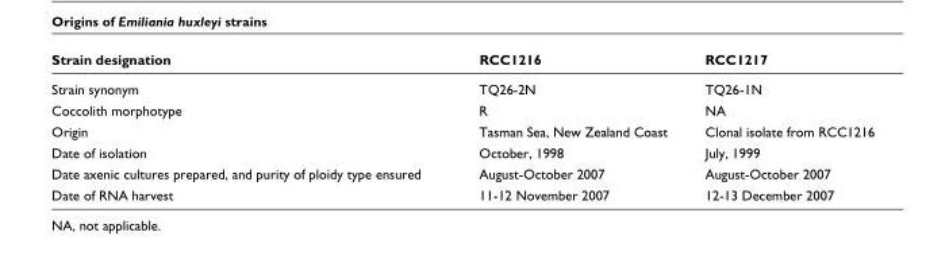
<table><thead><tr><td>Strain designation</td><td>RCC1216</td><td>RCC1217</td></tr></thead><tbody><tr><td>Strain synonym</td><td>TQ26-2N</td><td>TQ26-1N</td></tr><tr><td>Coccolith morphotype</td><td>R</td><td>NA</td></tr><tr><td>Origin</td><td>Tasman Sea, New Zealand Coast</td><td>Clonal isolate from RCC1216</td></tr><tr><td>Date of isolation</td><td>October, 1998</td><td>July, 1999</td></tr><tr><td>Date axenic cultures prepared, and purity of ploidy type ensured</td><td>August-October 2007</td><td>August-October 2007</td></tr><tr><td>Date of RNA harvest</td><td>11-12 November 2007</td><td>12-13 December 2007</td></tr></tbody></table>